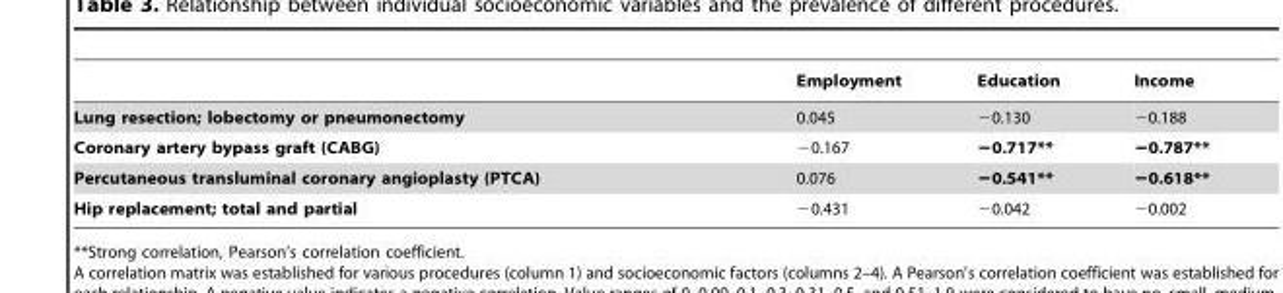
<table><thead><tr><td></td><td>Employment</td><td>Education</td><td>Income</td></tr></thead><tbody><tr><td>Lung resection; lobectomy or pneumonectomy</td><td>0.045</td><td>−0.130</td><td>−0.188</td></tr><tr><td>Coronary artery bypass graft (CABG)</td><td>−0.167</td><td>−0.717**</td><td>−0.787**</td></tr><tr><td>Percutaneous transluminal coronary angioplasty (PTCA)</td><td>0.076</td><td>−0.541**</td><td>−0.618**</td></tr><tr><td>Hip replacement; total and partial</td><td>−0.431</td><td>−0.042</td><td>−0.002</td></tr></tbody></table>